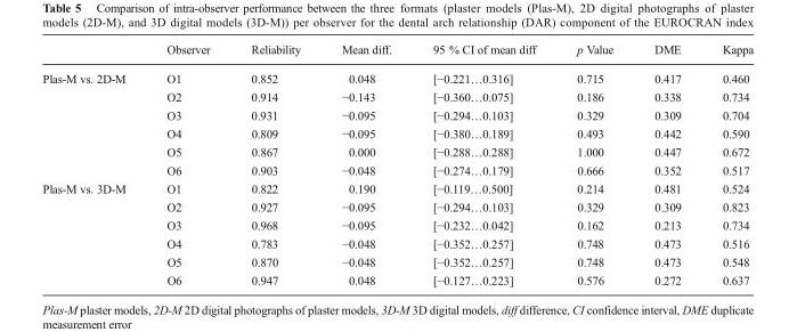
<table><thead><tr><td></td><td>Observer</td><td>Reliability</td><td>Mean diff.</td><td>95 % CI of mean diff</td><td>p Value</td><td>DME</td><td>Kappa</td></tr></thead><tbody><tr><td rowspan="6">Plas-M vs. 2D-M</td><td>O1</td><td>0.852</td><td>0.048</td><td>[−0.221…0.316]</td><td>0.715</td><td>0.417</td><td>0.460</td></tr><tr><td>O2</td><td>0.914</td><td>−0.143</td><td>[−0.360…0.075]</td><td>0.186</td><td>0.338</td><td>0.734</td></tr><tr><td>O3</td><td>0.931</td><td>−0.095</td><td>[−0.294…0.103]</td><td>0.329</td><td>0.309</td><td>0.704</td></tr><tr><td>O4</td><td>0.809</td><td>−0.095</td><td>[−0.380…0.189]</td><td>0.493</td><td>0.442</td><td>0.590</td></tr><tr><td>O5</td><td>0.867</td><td>0.000</td><td>[−0.288…0.288]</td><td>1.000</td><td>0.447</td><td>0.672</td></tr><tr><td>O6</td><td>0.903</td><td>−0.048</td><td>[−0.274…0.179]</td><td>0.666</td><td>0.352</td><td>0.517</td></tr><tr><td rowspan="6">Plas-M vs. 3D-M</td><td>O1</td><td>0.822</td><td>0.190</td><td>[−0.119…0.500]</td><td>0.214</td><td>0.481</td><td>0.524</td></tr><tr><td>O2</td><td>0.927</td><td>−0.095</td><td>[−0.294…0.103]</td><td>0.329</td><td>0.309</td><td>0.823</td></tr><tr><td>O3</td><td>0.968</td><td>−0.095</td><td>[−0.232…0.042]</td><td>0.162</td><td>0.213</td><td>0.734</td></tr><tr><td>O4</td><td>0.783</td><td>−0.048</td><td>[−0.352…0.257]</td><td>0.748</td><td>0.473</td><td>0.516</td></tr><tr><td>O5</td><td>0.870</td><td>−0.048</td><td>[−0.352…0.257]</td><td>0.748</td><td>0.473</td><td>0.548</td></tr><tr><td>O6</td><td>0.947</td><td>0.048</td><td>[−0.127…0.223]</td><td>0.576</td><td>0.272</td><td>0.637</td></tr></tbody></table>